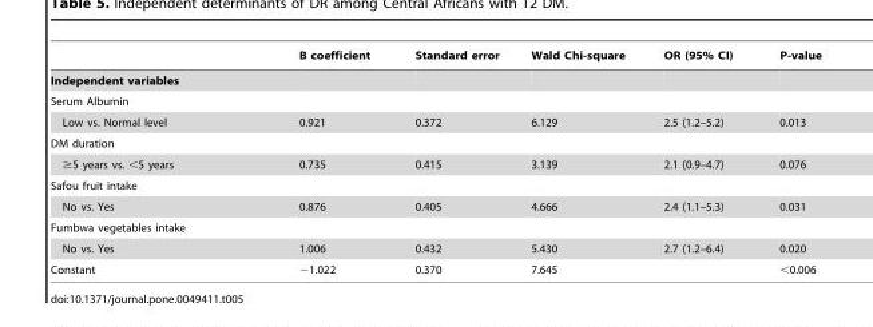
<table><thead><tr><td></td><td>B coefficient</td><td>Standard error</td><td>Wald Chi-square</td><td>OR (95% CI)</td><td>P-value</td></tr></thead><tbody><tr><td colspan="6">Independent variables</td></tr><tr><td colspan="6">Serum Albumin</td></tr><tr><td>Low vs. Normal level</td><td>0.921</td><td>0.372</td><td>6.129</td><td>2.5 (1.2–5.2)</td><td>0.013</td></tr><tr><td colspan="6">DM duration</td></tr><tr><td>≥5 years vs. &lt;5 years</td><td>0.735</td><td>0.415</td><td>3.139</td><td>2.1 (0.9–4.7)</td><td>0.076</td></tr><tr><td colspan="6">Safou fruit intake</td></tr><tr><td>No vs. Yes</td><td>0.876</td><td>0.405</td><td>4.666</td><td>2.4 (1.1–5.3)</td><td>0.031</td></tr><tr><td colspan="6">Fumbwa vegetables intake</td></tr><tr><td>No vs. Yes</td><td>1.006</td><td>0.432</td><td>5.430</td><td>2.7 (1.2–6.4)</td><td>0.020</td></tr><tr><td>Constant</td><td>−1.022</td><td>0.370</td><td>7.645</td><td></td><td>&lt;0.006</td></tr></tbody></table>